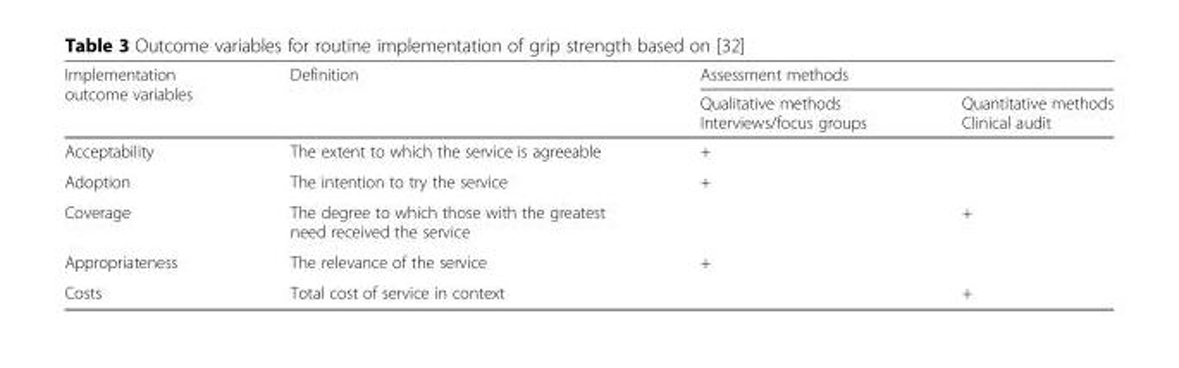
<table><thead><tr><td rowspan="2">Implementation outcome variables</td><td rowspan="2">Definition</td><td colspan="2">Assessment methods</td></tr><tr><td>Qualitative methods Interviews/focus groups</td><td>Quantitative methods Clinical audit</td></tr></thead><tbody><tr><td>Acceptability</td><td>The extent to which the service is agreeable</td><td>+</td><td></td></tr><tr><td>Adoption</td><td>The intention to try the service</td><td>+</td><td></td></tr><tr><td>Coverage</td><td>The degree to which those with the greatest need received the service</td><td></td><td>+</td></tr><tr><td>Appropriateness</td><td>The relevance of the service</td><td>+</td><td></td></tr><tr><td>Costs</td><td>Total cost of service in context</td><td></td><td>+</td></tr></tbody></table>